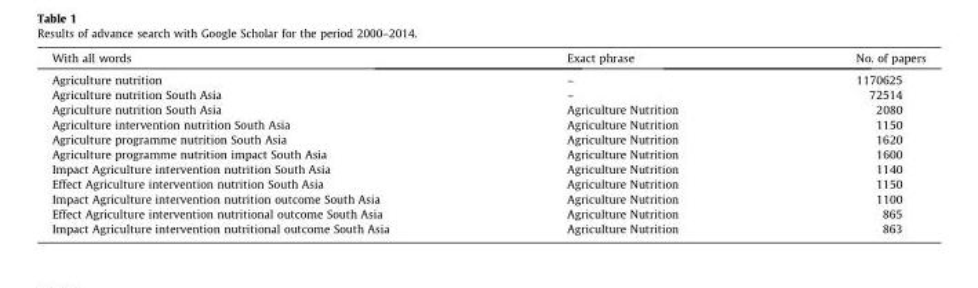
<table><thead><tr><td>With all words</td><td>Exact phrase</td><td>No. of papers</td></tr></thead><tbody><tr><td>Agriculture nutrition</td><td>–</td><td>1170625</td></tr><tr><td>Agriculture nutrition South Asia</td><td>–</td><td>72514</td></tr><tr><td>Agriculture nutrition South Asia</td><td>Agriculture Nutrition</td><td>2080</td></tr><tr><td>Agriculture intervention nutrition South Asia</td><td>Agriculture Nutrition</td><td>1150</td></tr><tr><td>Agriculture programme nutrition South Asia</td><td>Agriculture Nutrition</td><td>1620</td></tr><tr><td>Agriculture programme nutrition impact South Asia</td><td>Agriculture Nutrition</td><td>1600</td></tr><tr><td>Impact Agriculture intervention nutrition South Asia</td><td>Agriculture Nutrition</td><td>1140</td></tr><tr><td>Effect Agriculture intervention nutrition South Asia</td><td>Agriculture Nutrition</td><td>1150</td></tr><tr><td>Impact Agriculture intervention nutrition outcome South Asia</td><td>Agriculture Nutrition</td><td>1100</td></tr><tr><td>Effect Agriculture intervention nutritional outcome South Asia</td><td>Agriculture Nutrition</td><td>865</td></tr><tr><td>Impact Agriculture intervention nutritional outcome South Asia</td><td>Agriculture Nutrition</td><td>863</td></tr></tbody></table>